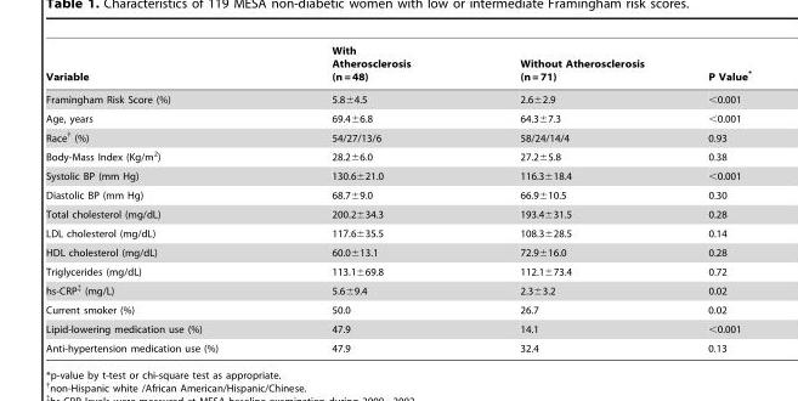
<table><thead><tr><td>Variable</td><td>With Atherosclerosis (n = 48)</td><td>Without Atherosclerosis (n = 71)</td><td>P Value*</td></tr></thead><tbody><tr><td>Framingham Risk Score (%)</td><td>5.8±4.5</td><td>2.6±2.9</td><td>&lt;0.001</td></tr><tr><td>Age, years</td><td>69.4±6.8</td><td>64.3±7.3</td><td>&lt;0.001</td></tr><tr><td>Race† (%)</td><td>54/27/13/6</td><td>58/24/14/4</td><td>0.93</td></tr><tr><td>Body-Mass Index (Kg/m<sup>2</sup>)</td><td>28.2±6.0</td><td>27.2±5.8</td><td>0.38</td></tr><tr><td>Systolic BP (mm Hg)</td><td>130.6±21.0</td><td>116.3±18.4</td><td>&lt;0.001</td></tr><tr><td>Diastolic BP (mm Hg)</td><td>68.7±9.0</td><td>66.9±10.5</td><td>0.30</td></tr><tr><td>Total cholesterol (mg/dL)</td><td>200.2±34.3</td><td>193.4±31.5</td><td>0.28</td></tr><tr><td>LDL cholesterol (mg/dL)</td><td>117.6±35.5</td><td>108.3±28.5</td><td>0.14</td></tr><tr><td>HDL cholesterol (mg/dL)</td><td>60.0±13.1</td><td>72.9±16.0</td><td>0.28</td></tr><tr><td>Triglycerides (mg/dL)</td><td>113.1±69.8</td><td>112.1±73.4</td><td>0.72</td></tr><tr><td>hs-CRP‡ (mg/L)</td><td>5.6±9.4</td><td>2.3±3.2</td><td>0.02</td></tr><tr><td>Current smoker (%)</td><td>50.0</td><td>26.7</td><td>0.02</td></tr><tr><td>Lipid-lowering medication use (%)</td><td>47.9</td><td>14.1</td><td>&lt;0.001</td></tr><tr><td>Anti-hypertension medication use (%)</td><td>47.9</td><td>32.4</td><td>0.13</td></tr></tbody></table>